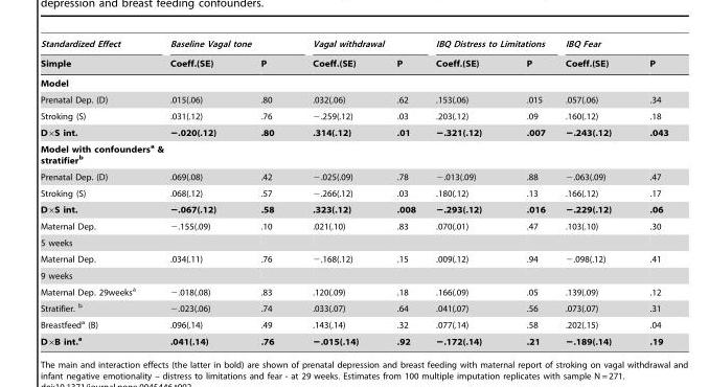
<table><thead><tr><td rowspan="2">Standardized Effect Simple</td><td colspan="2">Baseline Vagal tone</td><td colspan="2">Vagal withdrawal</td><td colspan="2">IBQ Distress to Limitations</td><td colspan="2">IBQ Fear</td></tr><tr><td>Coeff.(SE)</td><td>P</td><td>Coeff.(SE)</td><td>P</td><td>Coeff.(SE)</td><td>P</td><td>Coeff.(SE)</td><td>P</td></tr></thead><tbody><tr><td colspan="9">Model</td></tr><tr><td>Prenatal Dep. (D)</td><td>.015(.06)</td><td>.80</td><td>.032(.06)</td><td>.62</td><td>.153(.06)</td><td>.015</td><td>.057(.06)</td><td>.34</td></tr><tr><td>Stroking (S)</td><td>.031(.12)</td><td>.76</td><td>−.259(.12)</td><td>.03</td><td>.203(.12)</td><td>.09</td><td>.160(.12)</td><td>.18</td></tr><tr><td>D×S int.</td><td>−.020(.12)</td><td>.80</td><td>.314(.12)</td><td>.01</td><td>−.321(.12)</td><td>.007</td><td>−.243(.12)</td><td>.043</td></tr><tr><td colspan="9">Model with confounders<sup>a</sup> &amp; stratifier<sup>b</sup></td></tr><tr><td>Prenatal Dep. (D)</td><td>.069(.08)</td><td>.42</td><td>−.025(.09)</td><td>.78</td><td>−.013(.09)</td><td>.88</td><td>−.063(.09)</td><td>.47</td></tr><tr><td>Stroking (S)</td><td>.068(.12)</td><td>.57</td><td>−.266(.12)</td><td>.03</td><td>.180(.12)</td><td>.13</td><td>.166(.12)</td><td>.17</td></tr><tr><td>D×S int.</td><td>−.067(.12)</td><td>.58</td><td>.323(.12)</td><td>.008</td><td>−.293(.12)</td><td>.016</td><td>−.229(.12)</td><td>.06</td></tr><tr><td>Maternal Dep.</td><td>−.155(.09)</td><td>.10</td><td>.021(.10)</td><td>.83</td><td>.070(.01)</td><td>.47</td><td>.103(.10)</td><td>.30</td></tr><tr><td colspan="9">5 weeks</td></tr><tr><td>Maternal Dep.</td><td>.034(.11)</td><td>.76</td><td>−.168(.12)</td><td>.15</td><td>.009(.12)</td><td>.94</td><td>−.098(.12)</td><td>.41</td></tr><tr><td colspan="9">9 weeks</td></tr><tr><td>Maternal Dep. 29weeks<sup>a</sup></td><td>−.018(.08)</td><td>.83</td><td>.120(.09)</td><td>.18</td><td>.166(.09)</td><td>.05</td><td>.139(.09)</td><td>.12</td></tr><tr><td>Stratifier. <sup>b</sup></td><td>−.023(.06)</td><td>.74</td><td>.033(.07)</td><td>.64</td><td>.041(.07)</td><td>.56</td><td>.073(.07)</td><td>.31</td></tr><tr><td>Breastfeed<sup>a</sup> (B)</td><td>.096(.14)</td><td>.49</td><td>.143(.14)</td><td>.32</td><td>.077(.14)</td><td>.58</td><td>.202(.15)</td><td>.04</td></tr><tr><td>D×B int.<sup>a</sup></td><td>.041(.14)</td><td>.76</td><td>−.015(.14)</td><td>.92</td><td>−.172(.14)</td><td>.21</td><td>−.189(.14)</td><td>.19</td></tr></tbody></table>